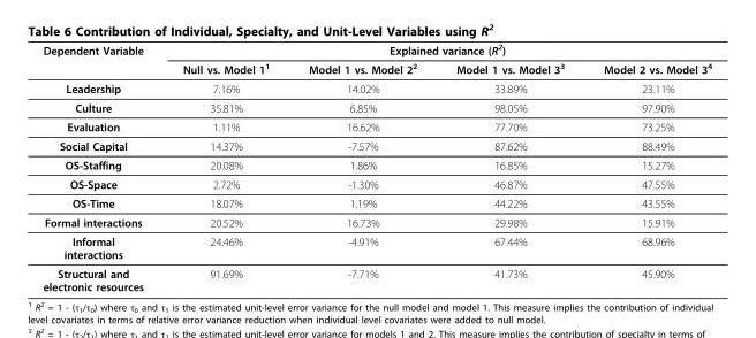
<table><thead><tr><td rowspan="2">Dependent Variable</td><td colspan="4">Explained variance (R<sup>2</sup>)</td></tr><tr><td>Null vs. Model 1<sup>1</sup></td><td>Model 1 vs. Model 2<sup>2</sup></td><td>Model 1 vs. Model 3<sup>3</sup></td><td>Model 2 vs. Model 3<sup>4</sup></td></tr></thead><tbody><tr><td>Leadership</td><td>7.16%</td><td>14.02%</td><td>33.89%</td><td>23.11%</td></tr><tr><td>Culture</td><td>35.81%</td><td>6.85%</td><td>98.05%</td><td>97.90%</td></tr><tr><td>Evaluation</td><td>1.11%</td><td>16.62%</td><td>77.70%</td><td>73.25%</td></tr><tr><td>Social Capital</td><td>14.37%</td><td>-7.57%</td><td>87.62%</td><td>88.49%</td></tr><tr><td>OS-Staffing</td><td>20.08%</td><td>1.86%</td><td>16.85%</td><td>15.27%</td></tr><tr><td>OS-Space</td><td>2.72%</td><td>-1.30%</td><td>46.87%</td><td>47.55%</td></tr><tr><td>OS-Time</td><td>18.07%</td><td>1.19%</td><td>44.22%</td><td>43.55%</td></tr><tr><td>Formal interactions</td><td>20.52%</td><td>16.73%</td><td>29.98%</td><td>15.91%</td></tr><tr><td>Informal interactions</td><td>24.46%</td><td>-4.91%</td><td>67.44%</td><td>68.96%</td></tr><tr><td>Structural and electronic resources</td><td>91.69%</td><td>-7.71%</td><td>41.73%</td><td>45.90%</td></tr></tbody></table>